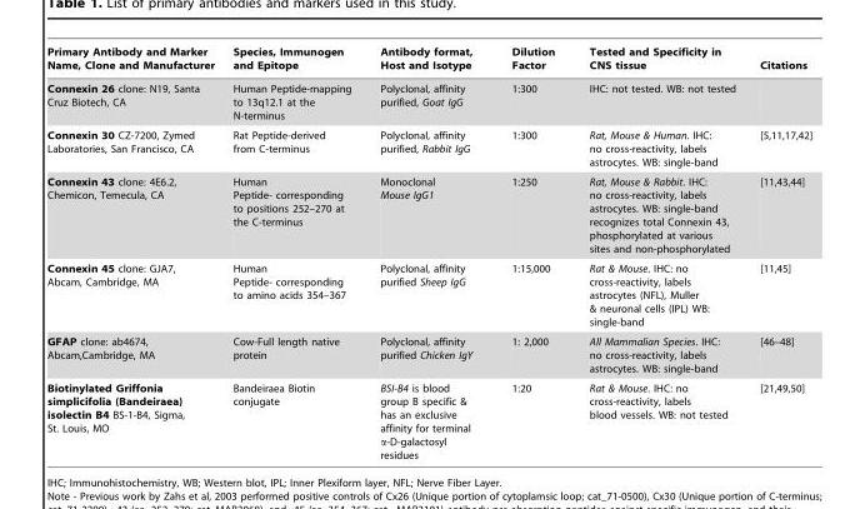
<table><thead><tr><td>Primary Antibody and Marker Name, Clone and Manufacturer</td><td>Species, Immunogen and Epitope</td><td>Antibody format, Host and Isotype</td><td>Dilution Factor</td><td>Tested and Specificity in CNS tissue</td><td>Citations</td></tr></thead><tbody><tr><td>Connexin 26 clone: N19, Santa Cruz Biotech, CA</td><td>Human Peptide-mapping to 13q12.1 at the N-terminus</td><td>Polyclonal, affinity purified, Goat IgG</td><td>1:300</td><td>IHC: not tested. WB: not tested</td><td></td></tr><tr><td>Connexin 30 CZ-7200, Zymed Laboratories, San Francisco, CA</td><td>Rat Peptide-derived from C-terminus</td><td>Polyclonal, affinity purified, Rabbit IgG</td><td>1:300</td><td>Rat, Mouse &amp; Human. IHC: no cross-reactivity, labels astrocytes. WB: single-band</td><td>[5,11,17,42]</td></tr><tr><td>Connexin 43 clone: 4E6.2, Chemicon, Temecula, CA</td><td>Human Peptide- corresponding to positions 252–270 at the C-terminus</td><td>Monoclonal Mouse IgG1</td><td>1:250</td><td>Rat, Mouse &amp; Rabbit. IHC: no cross-reactivity, labels astrocytes. WB: single-band recognizes total Connexin 43, phosphorylated at various sites and non-phosphorylated</td><td>[11,43,44]</td></tr><tr><td>Connexin 45 clone: GJA7, Abcam, Cambridge, MA</td><td>Human Peptide- corresponding to amino acids 354–367</td><td>Polyclonal, affinity purified Sheep IgG</td><td>1:15,000</td><td>Rat &amp; Mouse. IHC: no cross-reactivity, labels astrocytes (NFL), Muller &amp; neuronal cells (IPL) WB: single-band</td><td>[11,45]</td></tr><tr><td>GFAP clone: ab4674, Abcam,Cambridge, MA</td><td>Cow-Full length native protein</td><td>Polyclonal, affinity purified Chicken IgY</td><td>1: 2,000</td><td>All Mammalian Species. IHC: no cross-reactivity, labels astrocytes. WB: single-band</td><td>[46–48]</td></tr><tr><td>Biotinylated Griffonia simplicifolia (Bandeiraea) isolectin B4 BS-1-B4, Sigma, St. Louis, MO</td><td>Bandeiraea Biotin conjugate</td><td>BSI-B4 is blood group B specific &amp; has an exclusive affinity for terminal α-D-galactosyl residues</td><td>1:20</td><td>Rat &amp; Mouse. IHC: no cross-reactivity, labels blood vessels. WB: not tested</td><td>[21,49,50]</td></tr></tbody></table>